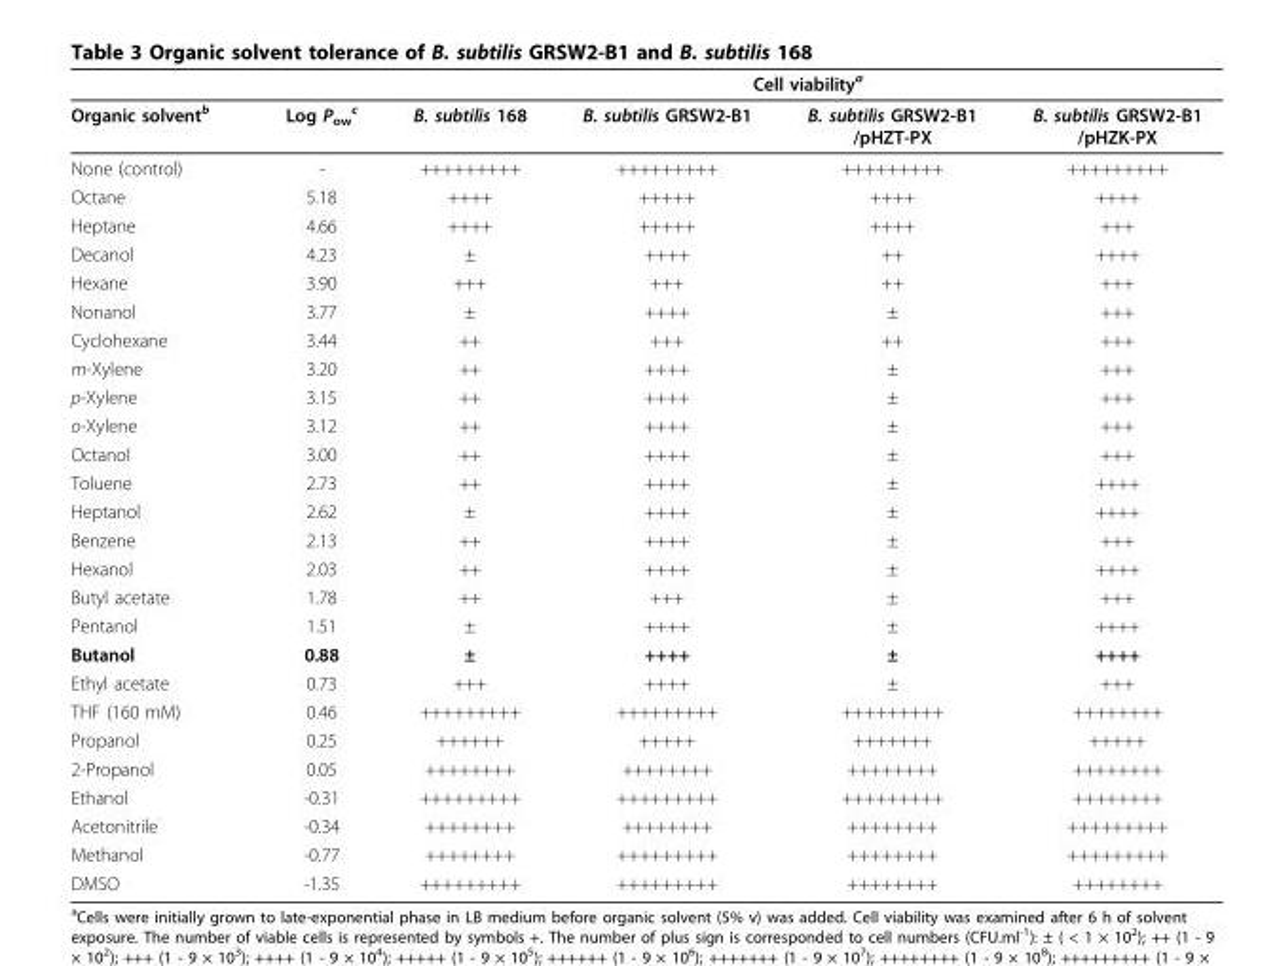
<table><thead><tr><td rowspan="2">Organic solvent<sup>b</sup></td><td rowspan="2">Log P<sub>ow</sub> <sup>c</sup></td><td colspan="4">Cell viability<sup>a</sup></td></tr><tr><td>B. subtilis 168</td><td>B. subtilis GRSW2-B1</td><td>B. subtilis GRSW2-B1 /pHZT-PX</td><td>B. subtilis GRSW2-B1 /pHZK-PX</td></tr></thead><tbody><tr><td>None (control)</td><td>-</td><td>+++++++++</td><td>+++++++++</td><td>+++++++++</td><td>+++++++++</td></tr><tr><td>Octane</td><td>5.18</td><td>++++</td><td>+++++</td><td>++++</td><td>++++</td></tr><tr><td>Heptane</td><td>4.66</td><td>++++</td><td>+++++</td><td>++++</td><td>+++</td></tr><tr><td>Decanol</td><td>4.23</td><td>±</td><td>++++</td><td>++</td><td>++++</td></tr><tr><td>Hexane</td><td>3.90</td><td>+++</td><td>+++</td><td>++</td><td>+++</td></tr><tr><td>Nonanol</td><td>3.77</td><td>±</td><td>++++</td><td>±</td><td>+++</td></tr><tr><td>Cyclohexane</td><td>3.44</td><td>++</td><td>+++</td><td>++</td><td>+++</td></tr><tr><td>m-Xylene</td><td>3.20</td><td>++</td><td>++++</td><td>±</td><td>+++</td></tr><tr><td>p-Xylene</td><td>3.15</td><td>++</td><td>++++</td><td>±</td><td>+++</td></tr><tr><td>o-Xylene</td><td>3.12</td><td>++</td><td>++++</td><td>±</td><td>+++</td></tr><tr><td>Octanol</td><td>3.00</td><td>++</td><td>++++</td><td>±</td><td>+++</td></tr><tr><td>Toluene</td><td>2.73</td><td>++</td><td>++++</td><td>±</td><td>++++</td></tr><tr><td>Heptanol</td><td>2.62</td><td>±</td><td>++++</td><td>±</td><td>++++</td></tr><tr><td>Benzene</td><td>2.13</td><td>++</td><td>++++</td><td>±</td><td>+++</td></tr><tr><td>Hexanol</td><td>2.03</td><td>++</td><td>++++</td><td>±</td><td>++++</td></tr><tr><td>Butyl acetate</td><td>1.78</td><td>++</td><td>+++</td><td>±</td><td>+++</td></tr><tr><td>Pentanol</td><td>1.51</td><td>±</td><td>++++</td><td>±</td><td>++++</td></tr><tr><td>Butanol</td><td>0.88</td><td>±</td><td>++++</td><td>±</td><td>++++</td></tr><tr><td>Ethyl acetate</td><td>0.73</td><td>+++</td><td>++++</td><td>±</td><td>+++</td></tr><tr><td>THF (160 mM)</td><td>0.46</td><td>+++++++++</td><td>+++++++++</td><td>+++++++++</td><td>++++++++</td></tr><tr><td>Propanol</td><td>0.25</td><td>++++++</td><td>+++++</td><td>+++++++</td><td>+++++</td></tr><tr><td>2-Propanol</td><td>0.05</td><td>++++++++</td><td>++++++++</td><td>++++++++</td><td>++++++++</td></tr><tr><td>Ethanol</td><td>-0.31</td><td>+++++++++</td><td>+++++++++</td><td>+++++++++</td><td>++++++++</td></tr><tr><td>Acetonitrile</td><td>-0.34</td><td>++++++++</td><td>++++++++</td><td>++++++++</td><td>+++++++++</td></tr><tr><td>Methanol</td><td>-0.77</td><td>++++++++</td><td>+++++++++</td><td>++++++++</td><td>+++++++++</td></tr><tr><td>DMSO</td><td>-1.35</td><td>+++++++++</td><td>+++++++++</td><td>++++++++</td><td>++++++++</td></tr></tbody></table>